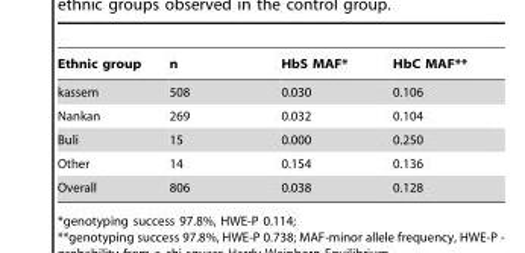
<table><thead><tr><td>Ethnic group</td><td>n</td><td>HbS MAF*</td><td>HbC MAF**</td></tr></thead><tbody><tr><td>kassem</td><td>508</td><td>0.030</td><td>0.106</td></tr><tr><td>Nankan</td><td>269</td><td>0.032</td><td>0.104</td></tr><tr><td>Buli</td><td>15</td><td>0.000</td><td>0.250</td></tr><tr><td>Other</td><td>14</td><td>0.154</td><td>0.136</td></tr><tr><td>Overall</td><td>806</td><td>0.038</td><td>0.128</td></tr></tbody></table>